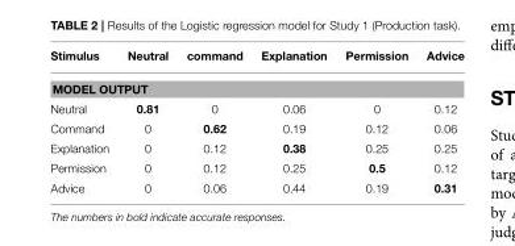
<table><thead><tr><td>Stimulus</td><td>Neutral</td><td>command</td><td>Explanation</td><td>Permission</td><td>Advice</td></tr></thead><tbody><tr><td colspan="6">MODEL OUTPUT</td></tr><tr><td>Neutral</td><td>0.81</td><td>0</td><td>0.06</td><td>0</td><td>0.12</td></tr><tr><td>Command</td><td>0</td><td>0.62</td><td>0.19</td><td>0.12</td><td>0.06</td></tr><tr><td>Explanation</td><td>0</td><td>0.12</td><td>0.38</td><td>0.25</td><td>0.25</td></tr><tr><td>Permission</td><td>0</td><td>0.12</td><td>0.25</td><td>0.5</td><td>0.12</td></tr><tr><td>Advice</td><td>0</td><td>0.06</td><td>0.44</td><td>0.19</td><td>0.31</td></tr></tbody></table>